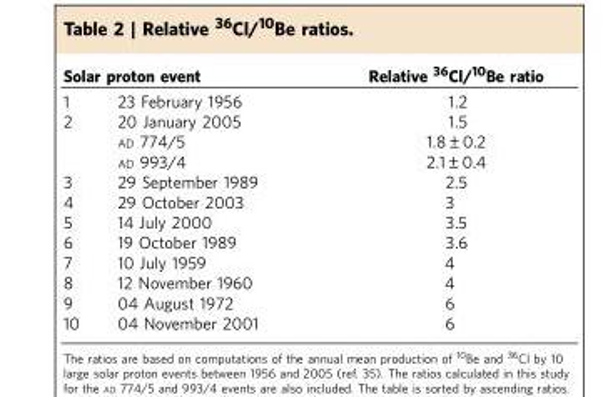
<table><thead><tr><td colspan="2">Solar proton event</td><td rowspan="2">Relative <sup>36</sup>Cl/<sup>10</sup>Be ratio 1.2</td></tr><tr><td>1</td><td>23 February 1956</td></tr></thead><tbody><tr><td rowspan="3">2</td><td>20 January 2005</td><td>1.5</td></tr><tr><td>AD 774/5</td><td>1.8±0.2</td></tr><tr><td>AD 993/4</td><td>2.1±0.4</td></tr><tr><td>3</td><td>29 September 1989</td><td>2.5</td></tr><tr><td>4</td><td>29 October 2003</td><td>3</td></tr><tr><td>5</td><td>14 July 2000</td><td>3.5</td></tr><tr><td>6</td><td>19 October 1989</td><td>3.6</td></tr><tr><td>7</td><td>10 July 1959</td><td>4</td></tr><tr><td>8</td><td>12 November 1960</td><td>4</td></tr><tr><td>9</td><td>04 August 1972</td><td>6</td></tr><tr><td>10</td><td>04 November 2001</td><td>6</td></tr></tbody></table>